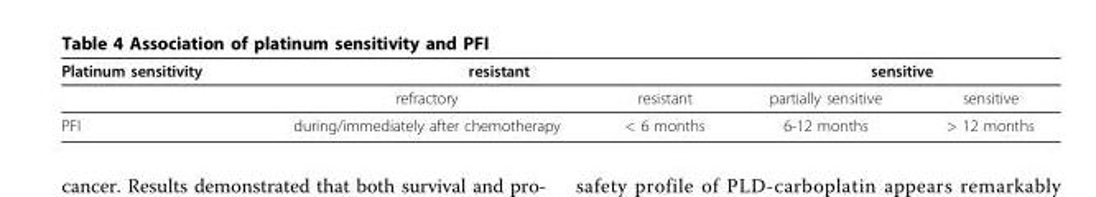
<table><thead><tr><td rowspan="2">Platinum sensitivity</td><td colspan="2">resistant</td><td colspan="2">sensitive</td></tr><tr><td>refractory</td><td>resistant</td><td>partially sensitive</td><td>sensitive</td></tr></thead><tbody><tr><td>PFI</td><td>during/immediately after chemotherapy</td><td>&lt; 6 months</td><td>6-12 months</td><td>&gt; 12 months</td></tr></tbody></table>